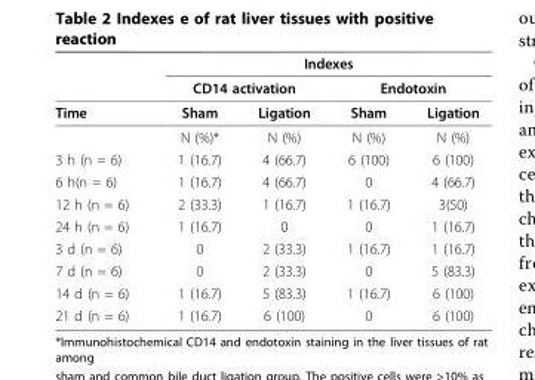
<table><thead><tr><td rowspan="3">Time</td><td colspan="4">Indexes</td></tr><tr><td colspan="2">CD14 activation</td><td colspan="2">Endotoxin</td></tr><tr><td>Sham</td><td>Ligation</td><td>Sham</td><td>Ligation</td></tr></thead><tbody><tr><td></td><td>N (%)*</td><td>N (%)</td><td>N (%)</td><td>N (%)</td></tr><tr><td>3 h (n = 6)</td><td>1 (16.7)</td><td>4 (66.7)</td><td>6 (100)</td><td>6 (100)</td></tr><tr><td>6 h(n = 6)</td><td>1 (16.7)</td><td>4 (66.7)</td><td>0</td><td>4 (66.7)</td></tr><tr><td>12 h (n = 6)</td><td>2 (33.3)</td><td>1 (16.7)</td><td>1 (16.7)</td><td>3(50)</td></tr><tr><td>24 h (n = 6)</td><td>1 (16.7)</td><td>0</td><td>0</td><td>1 (16.7)</td></tr><tr><td>3 d (n = 6)</td><td>0</td><td>2 (33.3)</td><td>1 (16.7)</td><td>1 (16.7)</td></tr><tr><td>7 d (n = 6)</td><td>0</td><td>2 (33.3)</td><td>0</td><td>5 (83.3)</td></tr><tr><td>14 d (n = 6)</td><td>1 (16.7)</td><td>5 (83.3)</td><td>1 (16.7)</td><td>6 (100)</td></tr><tr><td>21 d (n = 6)</td><td>1 (16.7)</td><td>6 (100)</td><td>0</td><td>6 (100)</td></tr></tbody></table>